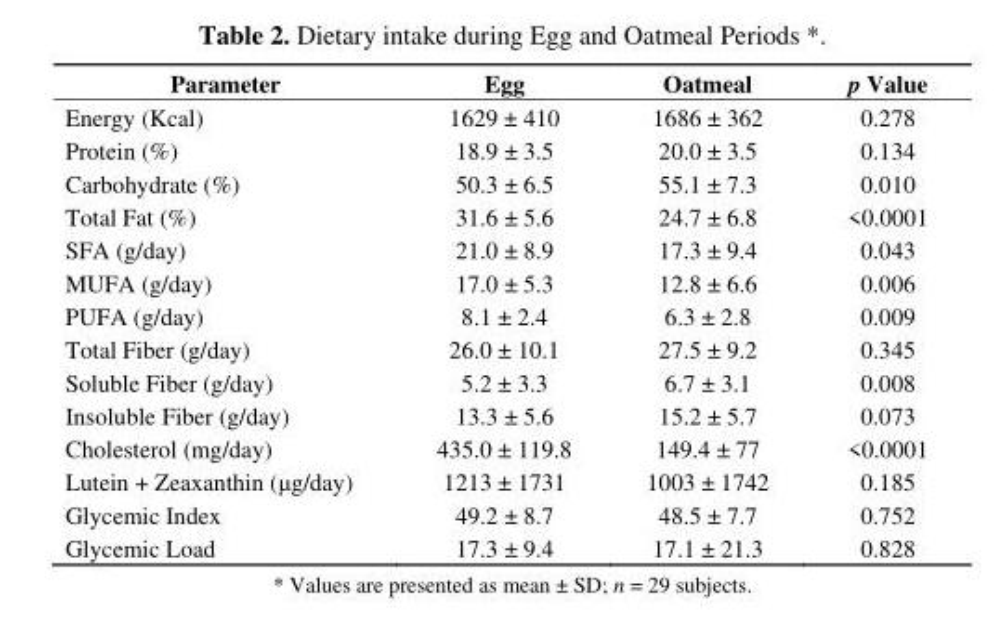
<table><thead><tr><td>Parameter</td><td>Egg</td><td>Oatmeal</td><td>p Value</td></tr></thead><tbody><tr><td>Energy (Kcal)</td><td>1629 ± 410</td><td>1686 ± 362</td><td>0.278</td></tr><tr><td>Protein (%)</td><td>18.9 ± 3.5</td><td>20.0 ± 3.5</td><td>0.134</td></tr><tr><td>Carbohydrate (%)</td><td>50.3 ± 6.5</td><td>55.1 ± 7.3</td><td>0.010</td></tr><tr><td>Total Fat (%)</td><td>31.6 ± 5.6</td><td>24.7 ± 6.8</td><td>&lt;0.0001</td></tr><tr><td>SFA (g/day)</td><td>21.0 ± 8.9</td><td>17.3 ± 9.4</td><td>0.043</td></tr><tr><td>MUFA (g/day)</td><td>17.0 ± 5.3</td><td>12.8 ± 6.6</td><td>0.006</td></tr><tr><td>PUFA (g/day)</td><td>8.1 ± 2.4</td><td>6.3 ± 2.8</td><td>0.009</td></tr><tr><td>Total Fiber (g/day)</td><td>26.0 ± 10.1</td><td>27.5 ± 9.2</td><td>0.345</td></tr><tr><td>Soluble Fiber (g/day)</td><td>5.2 ± 3.3</td><td>6.7 ± 3.1</td><td>0.008</td></tr><tr><td>Insoluble Fiber (g/day)</td><td>13.3 ± 5.6</td><td>15.2 ± 5.7</td><td>0.073</td></tr><tr><td>Cholesterol (mg/day)</td><td>435.0 ± 119.8</td><td>149.4 ± 77</td><td>&lt;0.0001</td></tr><tr><td>Lutein + Zeaxanthin (μg/day)</td><td>1213 ± 1731</td><td>1003 ± 1742</td><td>0.185</td></tr><tr><td>Glycemic Index</td><td>49.2 ± 8.7</td><td>48.5 ± 7.7</td><td>0.752</td></tr><tr><td>Glycemic Load</td><td>17.3 ± 9.4</td><td>17.1 ± 21.3</td><td>0.828</td></tr></tbody></table>